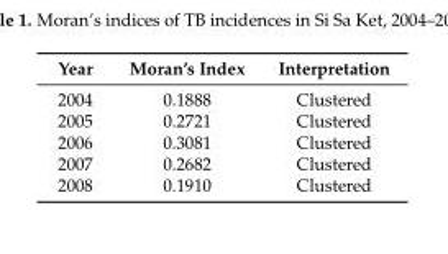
<table><thead><tr><td>Year</td><td>Moran’s Index</td><td>Interpretation</td></tr></thead><tbody><tr><td>2004</td><td>0.1888</td><td>Clustered</td></tr><tr><td>2005</td><td>0.2721</td><td>Clustered</td></tr><tr><td>2006</td><td>0.3081</td><td>Clustered</td></tr><tr><td>2007</td><td>0.2682</td><td>Clustered</td></tr><tr><td>2008</td><td>0.1910</td><td>Clustered</td></tr></tbody></table>